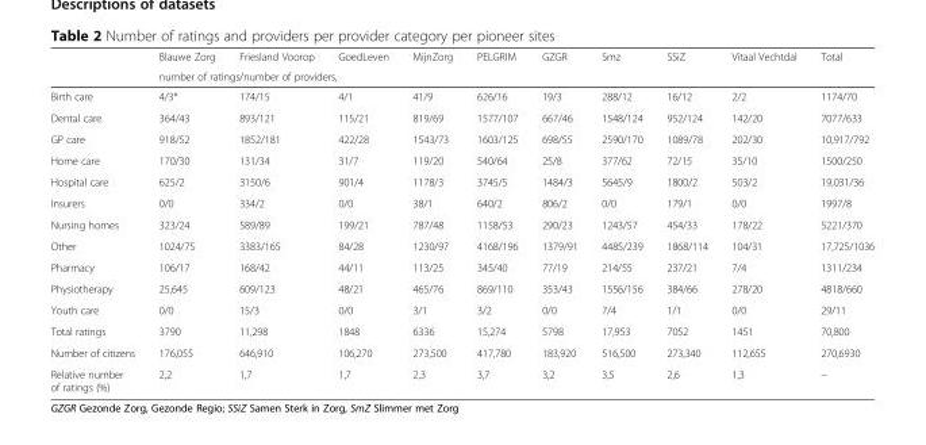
<table><thead><tr><td rowspan="2"></td><td>Blauwe Zorg</td><td>Friesland Voorop</td><td>GoedLeven</td><td>MijnZorg</td><td>PELGRIM</td><td>GZGR</td><td>Smz</td><td>SSiZ</td><td>Vitaal Vechtdal</td><td>Total</td></tr><tr><td colspan="10">number of ratings/number of providers,</td></tr></thead><tbody><tr><td>Birth care</td><td>4/3*</td><td>174/15</td><td>4/1</td><td>41/9</td><td>626/16</td><td>19/3</td><td>288/12</td><td>16/12</td><td>2/2</td><td>1174/70</td></tr><tr><td>Dental care</td><td>364/43</td><td>893/121</td><td>115/21</td><td>819/69</td><td>1577/107</td><td>667/46</td><td>1548/124</td><td>952/124</td><td>142/20</td><td>7077/633</td></tr><tr><td>GP care</td><td>918/52</td><td>1852/181</td><td>422/28</td><td>1543/73</td><td>1603/125</td><td>698/55</td><td>2590/170</td><td>1089/78</td><td>202/30</td><td>10,917/792</td></tr><tr><td>Home care</td><td>170/30</td><td>131/34</td><td>31/7</td><td>119/20</td><td>540/64</td><td>25/8</td><td>377/62</td><td>72/15</td><td>35/10</td><td>1500/250</td></tr><tr><td>Hospital care</td><td>625/2</td><td>3150/6</td><td>901/4</td><td>1178/3</td><td>3745/5</td><td>1484/3</td><td>5645/9</td><td>1800/2</td><td>503/2</td><td>19,031/36</td></tr><tr><td>Insurers</td><td>0/0</td><td>334/2</td><td>0/0</td><td>38/1</td><td>640/2</td><td>806/2</td><td>0/0</td><td>179/1</td><td>0/0</td><td>1997/8</td></tr><tr><td>Nursing homes</td><td>323/24</td><td>589/89</td><td>199/21</td><td>787/48</td><td>1158/53</td><td>290/23</td><td>1243/57</td><td>454/33</td><td>178/22</td><td>5221/370</td></tr><tr><td>Other</td><td>1024/75</td><td>3383/165</td><td>84/28</td><td>1230/97</td><td>4168/196</td><td>1379/91</td><td>4485/239</td><td>1868/114</td><td>104/31</td><td>17,725/1036</td></tr><tr><td>Pharmacy</td><td>106/17</td><td>168/42</td><td>44/11</td><td>113/25</td><td>345/40</td><td>77/19</td><td>214/55</td><td>237/21</td><td>7/4</td><td>1311/234</td></tr><tr><td>Physiotherapy</td><td>25,645</td><td>609/123</td><td>48/21</td><td>465/76</td><td>869/110</td><td>353/43</td><td>1556/156</td><td>384/66</td><td>278/20</td><td>4818/660</td></tr><tr><td>Youth care</td><td>0/0</td><td>15/3</td><td>0/0</td><td>3/1</td><td>3/2</td><td>0/0</td><td>7/4</td><td>1/1</td><td>0/0</td><td>29/11</td></tr><tr><td>Total ratings</td><td>3790</td><td>11,298</td><td>1848</td><td>6336</td><td>15,274</td><td>5798</td><td>17,953</td><td>7052</td><td>1451</td><td>70,800</td></tr><tr><td>Number of citizens</td><td>176,055</td><td>646,910</td><td>106,270</td><td>273,500</td><td>417,780</td><td>183,920</td><td>516,500</td><td>273,340</td><td>112,655</td><td>270,6930</td></tr><tr><td>Relative number of ratings (%)</td><td>2,2</td><td>1,7</td><td>1,7</td><td>2,3</td><td>3,7</td><td>3,2</td><td>3,5</td><td>2,6</td><td>1,3</td><td>–</td></tr></tbody></table>